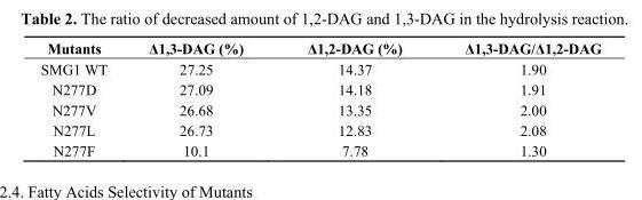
<table><thead><tr><td>Mutants</td><td>Δ1,3-DAG (%)</td><td>Δ1,2-DAG (%)</td><td>Δ1,3-DAG/Δ1,2-DAG</td></tr></thead><tbody><tr><td>SMG1 WT</td><td>27.25</td><td>14.37</td><td>1.90</td></tr><tr><td>N277D</td><td>27.09</td><td>14.18</td><td>1.91</td></tr><tr><td>N277V</td><td>26.68</td><td>13.35</td><td>2.00</td></tr><tr><td>N277L</td><td>26.73</td><td>12.83</td><td>2.08</td></tr><tr><td>N277F</td><td>10.1</td><td>7.78</td><td>1.30</td></tr></tbody></table>